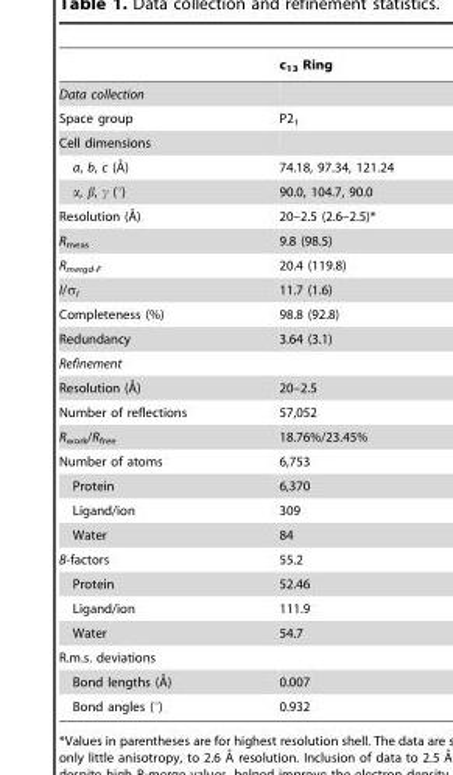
<table><thead><tr><td></td><td>c<sub>13</sub> Ring</td></tr></thead><tbody><tr><td colspan="2">Data collection</td></tr><tr><td>Space group</td><td>P2<sub>1</sub></td></tr><tr><td colspan="2">Cell dimensions</td></tr><tr><td>a, b, c (A˚)</td><td>74.18, 97.34, 121.24</td></tr><tr><td>α, β, γ (°)</td><td>90.0, 104.7, 90.0</td></tr><tr><td>Resolution (A˚)</td><td>20–2.5 (2.6–2.5)*</td></tr><tr><td>R<sub>meas</sub></td><td>9.8 (98.5)</td></tr><tr><td>R<sub>mergd-F</sub></td><td>20.4 (119.8)</td></tr><tr><td>I/σ<sub>I</sub></td><td>11.7 (1.6)</td></tr><tr><td>Completeness (%)</td><td>98.8 (92.8)</td></tr><tr><td>Redundancy</td><td>3.64 (3.1)</td></tr><tr><td colspan="2">Refinement</td></tr><tr><td>Resolution (A˚)</td><td>20–2.5</td></tr><tr><td>Number of reflections</td><td>57,052</td></tr><tr><td>R<sub>work</sub>/R<sub>free</sub></td><td>18.76%/23.45%</td></tr><tr><td>Number of atoms</td><td>6,753</td></tr><tr><td>Protein</td><td>6,370</td></tr><tr><td>Ligand/ion</td><td>309</td></tr><tr><td>Water</td><td>84</td></tr><tr><td>B-factors</td><td>55.2</td></tr><tr><td>Protein</td><td>52.46</td></tr><tr><td>Ligand/ion</td><td>111.9</td></tr><tr><td>Water</td><td>54.7</td></tr><tr><td colspan="2">R.m.s. deviations</td></tr><tr><td>Bond lengths (A˚)</td><td>0.007</td></tr><tr><td>Bond angles (°)</td><td>0.932</td></tr></tbody></table>